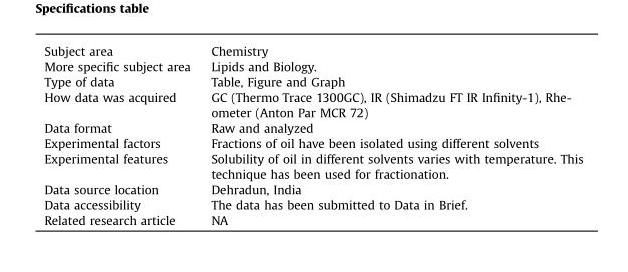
<table><tbody><tr><td>Subject area</td><td>Chemistry</td></tr><tr><td>More specific subject area</td><td>Lipids and Biology.</td></tr><tr><td>Type of data</td><td>Table, Figure and Graph</td></tr><tr><td>How data was acquired</td><td>GC (Thermo Trace 1300GC), IR (Shimadzu FT IR Infinity-1), Rhe- ometer (Anton Par MCR 72)</td></tr><tr><td>Data format</td><td>Raw and analyzed</td></tr><tr><td>Experimental factors</td><td>Fractions of oil have been isolated using different solvents</td></tr><tr><td>Experimental features</td><td>Solubility of oil in different solvents varies with temperature. This technique has been used for fractionation.</td></tr><tr><td>Data source location</td><td>Dehradun, India</td></tr><tr><td>Data accessibility</td><td>The data has been submitted to Data in Brief.</td></tr><tr><td>Related research article</td><td>NA</td></tr></tbody></table>